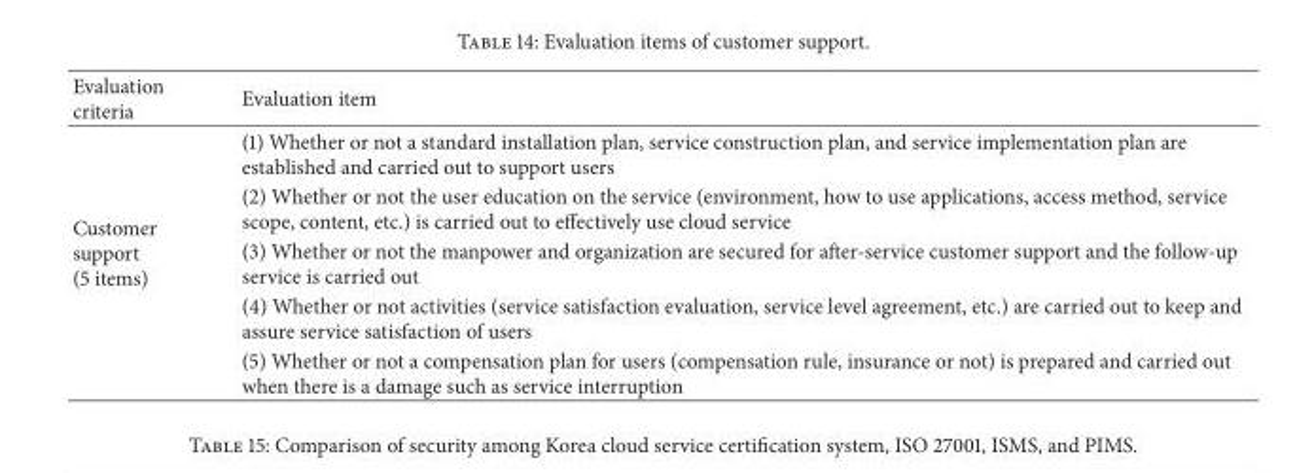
<table><thead><tr><td>Evaluation criteria</td><td>Evaluation item</td></tr></thead><tbody><tr><td rowspan="5">Customer support (5 items)</td><td>(1) Whether or not a standard installation plan, service construction plan, and service implementation plan are established and carried out to support users</td></tr><tr><td>(2) Whether or not the user education on the service (environment, how to use applications, access method, service scope, content, etc.) is carried out to effectively use cloud service</td></tr><tr><td>(3) Whether or not the manpower and organization are secured for after-service customer support and the follow-up service is carried out</td></tr><tr><td>(4) Whether or not activities (service satisfaction evaluation, service level agreement, etc.) are carried out to keep and assure service satisfaction of users</td></tr><tr><td>(5) Whether or not a compensation plan for users (compensation rule, insurance or not) is prepared and carried out when there is a damage such as service interruption</td></tr></tbody></table>